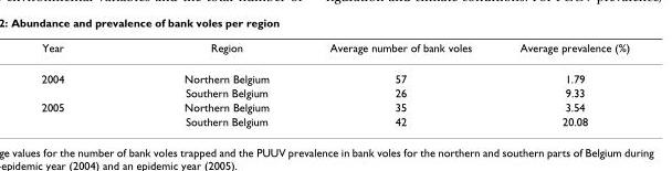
<table><thead><tr><td>Year</td><td>Region</td><td>Average number of bank voles</td><td>Average prevalence (%)</td></tr></thead><tbody><tr><td rowspan="2">2004</td><td>Northern Belgium</td><td>57</td><td>1.79</td></tr><tr><td>Southern Belgium</td><td>26</td><td>9.33</td></tr><tr><td rowspan="2">2005</td><td>Northern Belgium</td><td>35</td><td>3.54</td></tr><tr><td>Southern Belgium</td><td>42</td><td>20.08</td></tr></tbody></table>